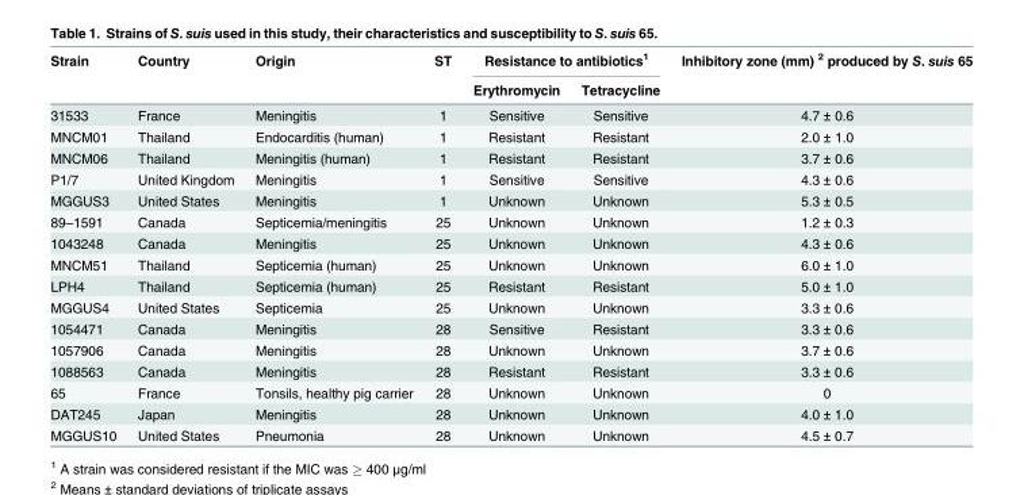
<table><thead><tr><td rowspan="2">Strain</td><td rowspan="2">Country</td><td rowspan="2">Origin</td><td rowspan="2">ST</td><td colspan="2">Resistance to antibiotics<sup>1</sup></td><td rowspan="2">Inhibitory zone (mm) <sup>2</sup> produced by S. suis 65</td></tr><tr><td>Erythromycin</td><td>Tetracycline</td></tr></thead><tbody><tr><td>31533</td><td>France</td><td>Meningitis</td><td>1</td><td>Sensitive</td><td>Sensitive</td><td>4.7 ± 0.6</td></tr><tr><td>MNCM01</td><td>Thailand</td><td>Endocarditis (human)</td><td>1</td><td>Resistant</td><td>Resistant</td><td>2.0 ± 1.0</td></tr><tr><td>MNCM06</td><td>Thailand</td><td>Meningitis (human)</td><td>1</td><td>Resistant</td><td>Resistant</td><td>3.7 ± 0.6</td></tr><tr><td>P1/7</td><td>United Kingdom</td><td>Meningitis</td><td>1</td><td>Sensitive</td><td>Sensitive</td><td>4.3 ± 0.6</td></tr><tr><td>MGGUS3</td><td>United States</td><td>Meningitis</td><td>1</td><td>Unknown</td><td>Unknown</td><td>5.3 ± 0.5</td></tr><tr><td>89–1591</td><td>Canada</td><td>Septicemia/meningitis</td><td>25</td><td>Unknown</td><td>Unknown</td><td>1.2 ± 0.3</td></tr><tr><td>1043248</td><td>Canada</td><td>Meningitis</td><td>25</td><td>Unknown</td><td>Unknown</td><td>4.3 ± 0.6</td></tr><tr><td>MNCM51</td><td>Thailand</td><td>Septicemia (human)</td><td>25</td><td>Unknown</td><td>Unknown</td><td>6.0 ± 1.0</td></tr><tr><td>LPH4</td><td>Thailand</td><td>Septicemia (human)</td><td>25</td><td>Resistant</td><td>Resistant</td><td>5.0 ± 1.0</td></tr><tr><td>MGGUS4</td><td>United States</td><td>Septicemia</td><td>25</td><td>Unknown</td><td>Unknown</td><td>3.3 ± 0.6</td></tr><tr><td>1054471</td><td>Canada</td><td>Meningitis</td><td>28</td><td>Sensitive</td><td>Resistant</td><td>3.3 ± 0.6</td></tr><tr><td>1057906</td><td>Canada</td><td>Meningitis</td><td>28</td><td>Unknown</td><td>Unknown</td><td>3.7 ± 0.6</td></tr><tr><td>1088563</td><td>Canada</td><td>Meningitis</td><td>28</td><td>Resistant</td><td>Resistant</td><td>3.3 ± 0.6</td></tr><tr><td>65</td><td>France</td><td>Tonsils, healthy pig carrier</td><td>28</td><td>Unknown</td><td>Unknown</td><td>0</td></tr><tr><td>DAT245</td><td>Japan</td><td>Meningitis</td><td>28</td><td>Unknown</td><td>Unknown</td><td>4.0 ± 1.0</td></tr><tr><td>MGGUS10</td><td>United States</td><td>Pneumonia</td><td>28</td><td>Unknown</td><td>Unknown</td><td>4.5 ± 0.7</td></tr></tbody></table>